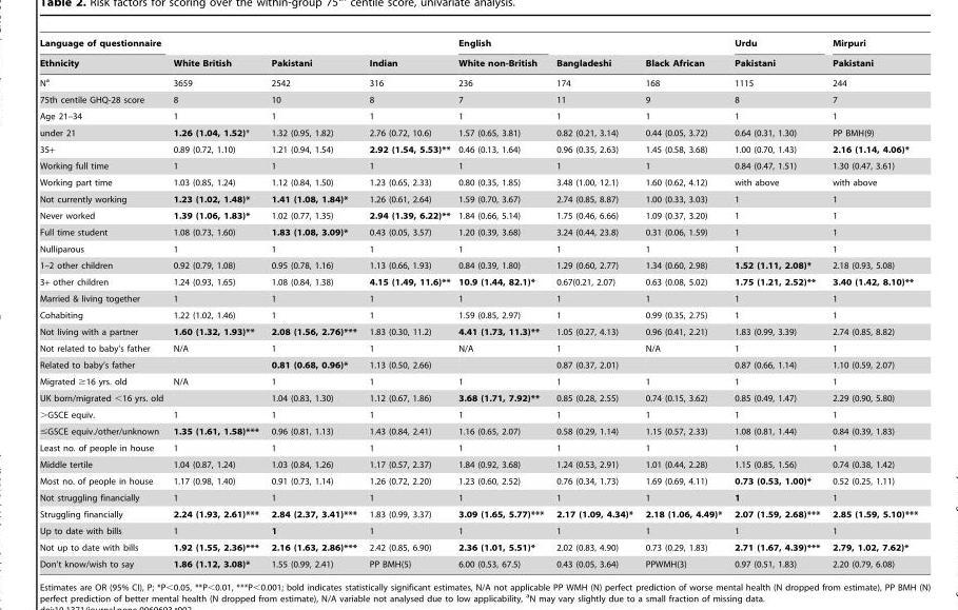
<table><thead><tr><td rowspan="2">Language of questionnaire Ethnicity</td><td rowspan="2">White British</td><td rowspan="2">Pakistani</td><td rowspan="2">Indian</td><td rowspan="2">English White non-British</td><td rowspan="2">Bangladeshi</td><td rowspan="2">Black African</td><td rowspan="2">Urdu Pakistani</td><td rowspan="2">Mirpuri Pakistani</td></tr><tr></tr></thead><tbody><tr><td>N<sup>a</sup></td><td>3659</td><td>2542</td><td>316</td><td>236</td><td>174</td><td>168</td><td>1115</td><td>244</td></tr><tr><td>75th centile GHQ-28 score</td><td>8</td><td>10</td><td>8</td><td>7</td><td>11</td><td>9</td><td>8</td><td>7</td></tr><tr><td>Age 21–34</td><td>1</td><td>1</td><td>1</td><td>1</td><td>1</td><td>1</td><td>1</td><td>1</td></tr><tr><td>under 21</td><td>1.26 (1.04, 1.52)*</td><td>1.32 (0.95, 1.82)</td><td>2.76 (0.72, 10.6)</td><td>1.57 (0.65, 3.81)</td><td>0.82 (0.21, 3.14)</td><td>0.44 (0.05, 3.72)</td><td>0.64 (0.31, 1.30)</td><td>PP BMH(9)</td></tr><tr><td>35+</td><td>0.89 (0.72, 1.10)</td><td>1.21 (0.94, 1.54)</td><td>2.92 (1.54, 5.53)**</td><td>0.46 (0.13, 1.64)</td><td>0.96 (0.35, 2.63)</td><td>1.45 (0.58, 3.68)</td><td>1.00 (0.70, 1.43)</td><td>2.16 (1.14, 4.06)*</td></tr><tr><td>Working full time</td><td>1</td><td>1</td><td>1</td><td>1</td><td>1</td><td>1</td><td>0.84 (0.47, 1.51)</td><td>1.30 (0.47, 3.61)</td></tr><tr><td>Working part time</td><td>1.03 (0.85, 1.24)</td><td>1.12 (0.84, 1.50)</td><td>1.23 (0.65, 2.33)</td><td>0.80 (0.35, 1.85)</td><td>3.48 (1.00, 12.1)</td><td>1.60 (0.62, 4.12)</td><td>with above</td><td>with above</td></tr><tr><td>Not currently working</td><td>1.23 (1.02, 1.48)*</td><td>1.41 (1.08, 1.84)*</td><td>1.26 (0.61, 2.64)</td><td>1.59 (0.70, 3.67)</td><td>2.74 (0.85, 8.87)</td><td>1.00 (0.33, 3.03)</td><td>1</td><td>1</td></tr><tr><td>Never worked</td><td>1.39 (1.06, 1.83)*</td><td>1.02 (0.77, 1.35)</td><td>2.94 (1.39, 6.22)**</td><td>1.84 (0.66, 5.14)</td><td>1.75 (0.46, 6.66)</td><td>1.09 (0.37, 3.20)</td><td>1</td><td>1</td></tr><tr><td>Full time student</td><td>1.08 (0.73, 1.60)</td><td>1.83 (1.08, 3.09)*</td><td>0.43 (0.05, 3.57)</td><td>1.20 (0.39, 3.68)</td><td>3.24 (0.44, 23.8)</td><td>0.31 (0.06, 1.59)</td><td>1</td><td>1</td></tr><tr><td>Nulliparous</td><td>1</td><td>1</td><td>1</td><td>1</td><td>1</td><td>1</td><td>1</td><td>1</td></tr><tr><td>1–2 other children</td><td>0.92 (0.79, 1.08)</td><td>0.95 (0.78, 1.16)</td><td>1.13 (0.66, 1.93)</td><td>0.84 (0.39, 1.80)</td><td>1.29 (0.60, 2.77)</td><td>1.34 (0.60, 2.98)</td><td>1.52 (1.11, 2.08)*</td><td>2.18 (0.93, 5.08)</td></tr><tr><td>3+ other children</td><td>1.24 (0.93, 1.65)</td><td>1.08 (0.84, 1.38)</td><td>4.15 (1.49, 11.6)**</td><td>10.9 (1.44, 82.1)*</td><td>0.67(0.21, 2.07)</td><td>0.63 (0.08, 5.02)</td><td>1.75 (1.21, 2.52)**</td><td>3.40 (1.42, 8.10)**</td></tr><tr><td>Married &amp; living together</td><td>1</td><td>1</td><td>1</td><td>1</td><td>1</td><td>1</td><td>1</td><td>1</td></tr><tr><td>Cohabiting</td><td>1.22 (1.02, 1.46)</td><td>1</td><td>1</td><td>1.59 (0.85, 2.97)</td><td>1</td><td>0.99 (0.35, 2.75)</td><td>1</td><td>1</td></tr><tr><td>Not living with a partner</td><td>1.60 (1.32, 1.93)**</td><td>2.08 (1.56, 2.76)***</td><td>1.83 (0.30, 11.2)</td><td>4.41 (1.73, 11.3)**</td><td>1.05 (0.27, 4.13)</td><td>0.96 (0.41, 2.21)</td><td>1.83 (0.99, 3.39)</td><td>2.74 (0.85, 8.82)</td></tr><tr><td>Not related to baby’s father</td><td>N/A</td><td>1</td><td>1</td><td>N/A</td><td>1</td><td>N/A</td><td>1</td><td>1</td></tr><tr><td>Related to baby’s father</td><td></td><td>0.81 (0.68, 0.96)*</td><td>1.13 (0.50, 2.66)</td><td></td><td>0.87 (0.37, 2.01)</td><td></td><td>0.87 (0.66, 1.14)</td><td>1.10 (0.59, 2.07)</td></tr><tr><td>Migrated ≥16 yrs. old</td><td>N/A</td><td>1</td><td>1</td><td>1</td><td>1</td><td>1</td><td>1</td><td>1</td></tr><tr><td>UK born/migrated &lt;16 yrs. old</td><td></td><td>1.04 (0.83, 1.30)</td><td>1.12 (0.67, 1.86)</td><td>3.68 (1.71, 7.92)**</td><td>0.85 (0.28, 2.55)</td><td>0.74 (0.15, 3.62)</td><td>0.85 (0.49, 1.47)</td><td>2.29 (0.90, 5.80)</td></tr><tr><td>&gt;GSCE equiv.</td><td>1</td><td>1</td><td>1</td><td>1</td><td>1</td><td>1</td><td>1</td><td>1</td></tr><tr><td>≤GSCE equiv./other/unknown</td><td>1.35 (1.61, 1.58)***</td><td>0.96 (0.81, 1.13)</td><td>1.43 (0.84, 2.41)</td><td>1.16 (0.65, 2.07)</td><td>0.58 (0.29, 1.14)</td><td>1.15 (0.57, 2.33)</td><td>1.08 (0.81, 1.44)</td><td>0.84 (0.39, 1.83)</td></tr><tr><td>Least no. of people in house</td><td>1</td><td>1</td><td>1</td><td>1</td><td>1</td><td>1</td><td>1</td><td>1</td></tr><tr><td>Middle tertile</td><td>1.04 (0.87, 1.24)</td><td>1.03 (0.84, 1.26)</td><td>1.17 (0.57, 2.37)</td><td>1.84 (0.92, 3.68)</td><td>1.24 (0.53, 2.91)</td><td>1.01 (0.44, 2.28)</td><td>1.15 (0.85, 1.56)</td><td>0.74 (0.38, 1.42)</td></tr><tr><td>Most no. of people in house</td><td>1.17 (0.98, 1.40)</td><td>0.91 (0.73, 1.14)</td><td>1.26 (0.72, 2.20)</td><td>1.23 (0.60, 2.52)</td><td>0.76 (0.34, 1.73)</td><td>1.69 (0.69, 4.11)</td><td>0.73 (0.53, 1.00)*</td><td>0.52 (0.25, 1.11)</td></tr><tr><td>Not struggling financially</td><td>1</td><td>1</td><td>1</td><td>1</td><td>1</td><td>1</td><td>1</td><td>1</td></tr><tr><td>Struggling financially</td><td>2.24 (1.93, 2.61)***</td><td>2.84 (2.37, 3.41)***</td><td>1.83 (0.99, 3.37)</td><td>3.09 (1.65, 5.77)***</td><td>2.17 (1.09, 4.34)*</td><td>2.18 (1.06, 4.49)*</td><td>2.07 (1.59, 2.68)***</td><td>2.85 (1.59, 5.10)***</td></tr><tr><td>Up to date with bills</td><td>1</td><td>1</td><td>1</td><td>1</td><td>1</td><td>1</td><td>1</td><td>1</td></tr><tr><td>Not up to date with bills</td><td>1.92 (1.55, 2.36)***</td><td>2.16 (1.63, 2.86)***</td><td>2.42 (0.85, 6.90)</td><td>2.36 (1.01, 5.51)*</td><td>2.02 (0.83, 4.90)</td><td>0.73 (0.29, 1.83)</td><td>2.71 (1.67, 4.39)***</td><td>2.79, 1.02, 7.62)*</td></tr><tr><td>Don’t know/wish to say</td><td>1.86 (1.12, 3.08)*</td><td>1.55 (0.99, 2.41)</td><td>PP BMH(5)</td><td>6.00 (0.53, 67.5)</td><td>0.43 (0.05, 3.64)</td><td>PPWMH(3)</td><td>0.97 (0.51, 1.83)</td><td>2.20 (0.79, 6.08)</td></tr></tbody></table>